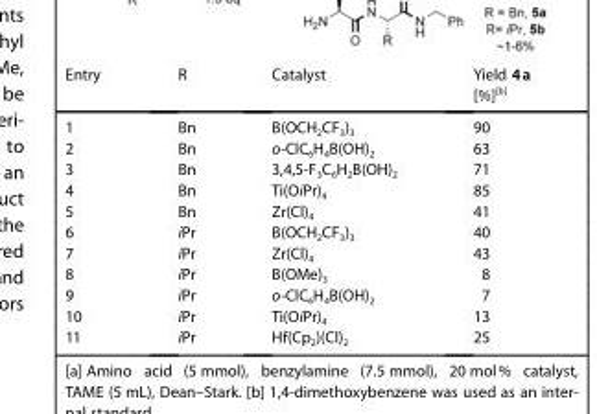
<table><thead><tr><td>Entry</td><td>R</td><td>Catalyst</td><td>Yield 4a [%]<sup>[b]</sup></td></tr></thead><tbody><tr><td>1</td><td>Bn</td><td>B(OCH<sub>2</sub>CF<sub>3</sub>)<sub>3</sub></td><td>90</td></tr><tr><td>2</td><td>Bn</td><td>o-ClC<sub>6</sub>H<sub>4</sub>B(OH)<sub>2</sub></td><td>63</td></tr><tr><td>3</td><td>Bn</td><td>3,4,5-F<sub>3</sub>C<sub>6</sub>H<sub>2</sub>B(OH)<sub>2</sub></td><td>71</td></tr><tr><td>4</td><td>Bn</td><td>Ti(OiPr)<sub>4</sub></td><td>85</td></tr><tr><td>5</td><td>Bn</td><td>Zr(Cl)<sub>4</sub></td><td>41</td></tr><tr><td>6</td><td>iPr</td><td>B(OCH<sub>2</sub>CF<sub>3</sub>)<sub>3</sub></td><td>40</td></tr><tr><td>7</td><td>iPr</td><td>Zr(Cl)<sub>4</sub></td><td>43</td></tr><tr><td>8</td><td>iPr</td><td>B(OMe)<sub>3</sub></td><td>8</td></tr><tr><td>9</td><td>iPr</td><td>o-ClC<sub>6</sub>H<sub>4</sub>B(OH)<sub>2</sub></td><td>7</td></tr><tr><td>10</td><td>iPr</td><td>Ti(OiPr)<sub>4</sub></td><td>13</td></tr><tr><td>11</td><td>iPr</td><td>Hf(Cp<sub>2</sub>)(Cl)<sub>2</sub></td><td>25</td></tr></tbody></table>